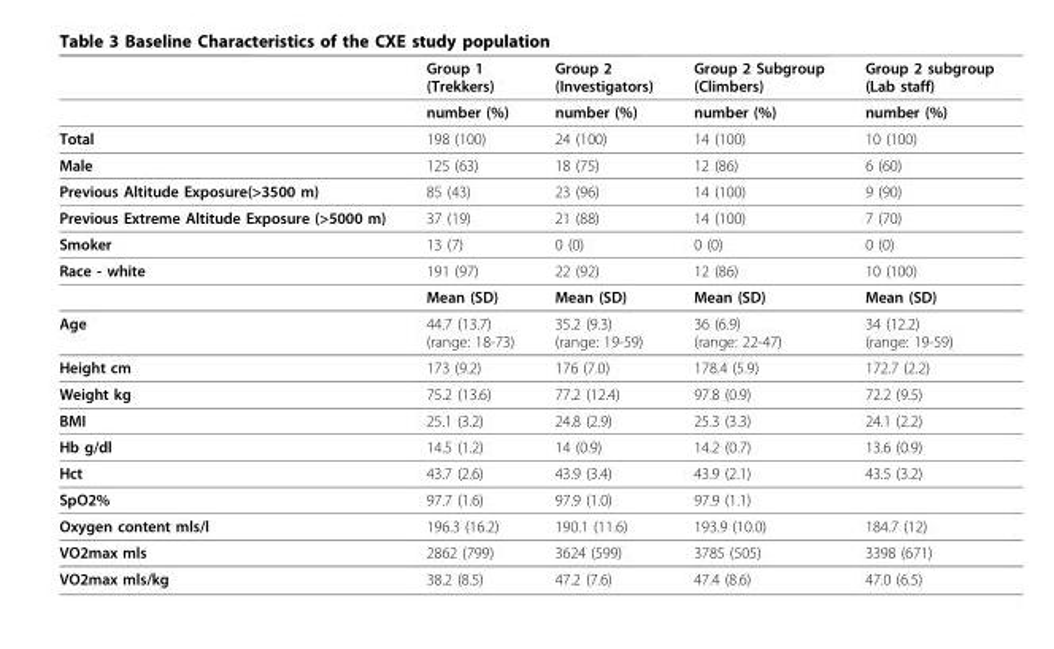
<table><thead><tr><td></td><td>Group 1 (Trekkers)</td><td>Group 2 (Investigators)</td><td>Group 2 Subgroup (Climbers)</td><td>Group 2 subgroup (Lab staff)</td></tr></thead><tbody><tr><td></td><td>number (%)</td><td>number (%)</td><td>number (%)</td><td>number (%)</td></tr><tr><td>Total</td><td>198 (100)</td><td>24 (100)</td><td>14 (100)</td><td>10 (100)</td></tr><tr><td>Male</td><td>125 (63)</td><td>18 (75)</td><td>12 (86)</td><td>6 (60)</td></tr><tr><td>Previous Altitude Exposure(&gt;3500 m)</td><td>85 (43)</td><td>23 (96)</td><td>14 (100)</td><td>9 (90)</td></tr><tr><td>Previous Extreme Altitude Exposure (&gt;5000 m)</td><td>37 (19)</td><td>21 (88)</td><td>14 (100)</td><td>7 (70)</td></tr><tr><td>Smoker</td><td>13 (7)</td><td>0 (0)</td><td>0 (0)</td><td>0 (0)</td></tr><tr><td rowspan="2">Race - white</td><td>191 (97)</td><td>22 (92)</td><td>12 (86)</td><td>10 (100)</td></tr><tr><td>Mean (SD)</td><td>Mean (SD)</td><td>Mean (SD)</td><td>Mean (SD)</td></tr><tr><td>Age</td><td>44.7 (13.7) (range: 18-73)</td><td>35.2 (9.3) (range: 19-59)</td><td>36 (6.9) (range: 22-47)</td><td>34 (12.2) (range: 19-59)</td></tr><tr><td>Height cm</td><td>173 (9.2)</td><td>176 (7.0)</td><td>178.4 (5.9)</td><td>172.7 (2.2)</td></tr><tr><td>Weight kg</td><td>75.2 (13.6)</td><td>77.2 (12.4)</td><td>97.8 (0.9)</td><td>72.2 (9.5)</td></tr><tr><td>BMI</td><td>25.1 (3.2)</td><td>24.8 (2.9)</td><td>25.3 (3.3)</td><td>24.1 (2.2)</td></tr><tr><td>Hb g/dl</td><td>14.5 (1.2)</td><td>14 (0.9)</td><td>14.2 (0.7)</td><td>13.6 (0.9)</td></tr><tr><td>Hct</td><td>43.7 (2.6)</td><td>43.9 (3.4)</td><td>43.9 (2.1)</td><td>43.5 (3.2)</td></tr><tr><td>SpO2%</td><td>97.7 (1.6)</td><td>97.9 (1.0)</td><td>97.9 (1.1)</td><td></td></tr><tr><td>Oxygen content mls/l</td><td>196.3 (16.2)</td><td>190.1 (11.6)</td><td>193.9 (10.0)</td><td>184.7 (12)</td></tr><tr><td>VO2max mls</td><td>2862 (799)</td><td>3624 (599)</td><td>3785 (505)</td><td>3398 (671)</td></tr><tr><td>VO2max mls/kg</td><td>38.2 (8.5)</td><td>47.2 (7.6)</td><td>47.4 (8.6)</td><td>47.0 (6.5)</td></tr></tbody></table>